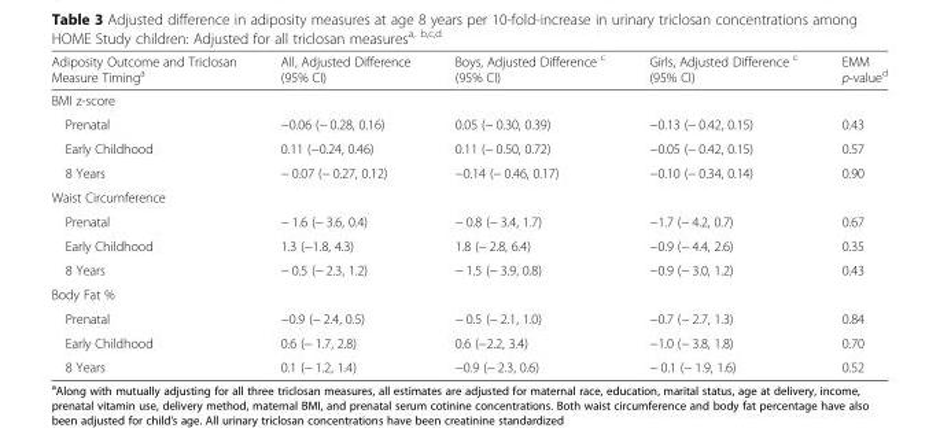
<table><thead><tr><td>Adiposity Outcome and Triclosan Measure Timing<sup>a</sup></td><td>All, Adjusted Difference (95% CI)</td><td>Boys, Adjusted Difference <sup>c</sup> (95% CI)</td><td>Girls, Adjusted Difference <sup>c</sup> (95% CI)</td><td>EMM p-value<sup>d</sup></td></tr></thead><tbody><tr><td colspan="5">BMI z-score</td></tr><tr><td>Prenatal</td><td>−0.06 (− 0.28, 0.16)</td><td>0.05 (− 0.30, 0.39)</td><td>−0.13 (− 0.42, 0.15)</td><td>0.43</td></tr><tr><td>Early Childhood</td><td>0.11 (−0.24, 0.46)</td><td>0.11 (− 0.50, 0.72)</td><td>−0.05 (− 0.42, 0.15)</td><td>0.57</td></tr><tr><td>8 Years</td><td>− 0.07 (− 0.27, 0.12)</td><td>−0.14 (− 0.46, 0.17)</td><td>−0.10 (− 0.34, 0.14)</td><td>0.90</td></tr><tr><td colspan="5">Waist Circumference</td></tr><tr><td>Prenatal</td><td>− 1.6 (− 3.6, 0.4)</td><td>− 0.8 (− 3.4, 1.7)</td><td>−1.7 (− 4.2, 0.7)</td><td>0.67</td></tr><tr><td>Early Childhood</td><td>1.3 (−1.8, 4.3)</td><td>1.8 (− 2.8, 6.4)</td><td>−0.9 (− 4.4, 2.6)</td><td>0.35</td></tr><tr><td>8 Years</td><td>− 0.5 (− 2.3, 1.2)</td><td>− 1.5 (− 3.9, 0.8)</td><td>−0.9 (− 3.0, 1.2)</td><td>0.43</td></tr><tr><td colspan="5">Body Fat %</td></tr><tr><td>Prenatal</td><td>−0.9 (− 2.4, 0.5)</td><td>− 0.5 (− 2.1, 1.0)</td><td>−0.7 (− 2.7, 1.3)</td><td>0.84</td></tr><tr><td>Early Childhood</td><td>0.6 (− 1.7, 2.8)</td><td>0.6 (−2.2, 3.4)</td><td>−1.0 (− 3.8, 1.8)</td><td>0.70</td></tr><tr><td>8 Years</td><td>0.1 (− 1.2, 1.4)</td><td>−0.9 (− 2.3, 0.6)</td><td>− 0.1 (− 1.9, 1.6)</td><td>0.52</td></tr></tbody></table>